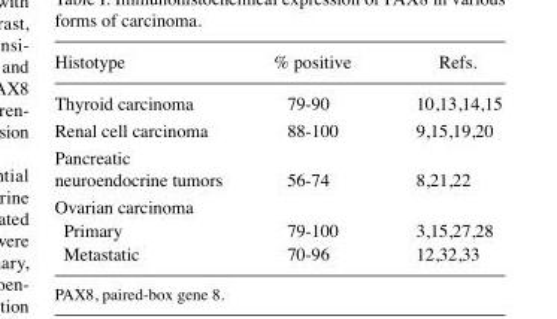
<table><thead><tr><td>Histotype</td><td>% positive</td><td>Refs.</td></tr></thead><tbody><tr><td>Thyroid carcinoma</td><td>79-90</td><td>10,13,14,15</td></tr><tr><td>Renal cell carcinoma</td><td>88-100</td><td>9,15,19,20</td></tr><tr><td>Pancreatic neuroendocrine tumors</td><td>56-74</td><td>8,21,22</td></tr><tr><td colspan="3">Ovarian carcinoma</td></tr><tr><td>Primary</td><td>79-100</td><td>3,15,27,28</td></tr><tr><td>Metastatic</td><td>70-96</td><td>12,32,33</td></tr></tbody></table>